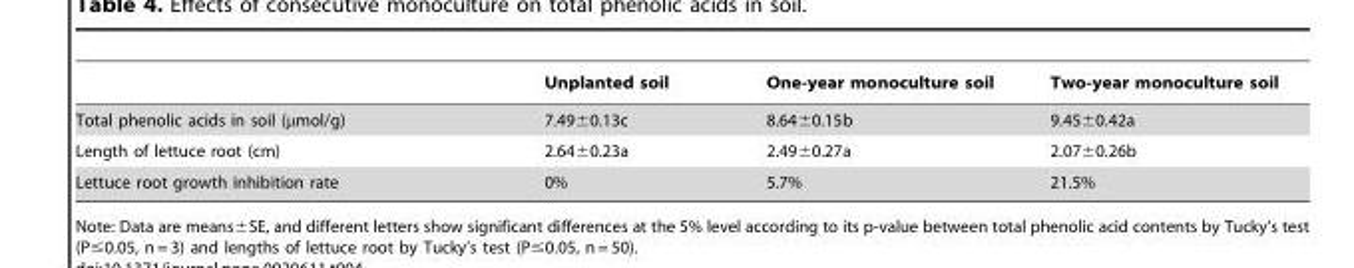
<table><thead><tr><td></td><td>Unplanted soil</td><td>One-year monoculture soil</td><td>Two-year monoculture soil</td></tr></thead><tbody><tr><td>Total phenolic acids in soil (μmol/g)</td><td>7.49±0.13c</td><td>8.64±0.15b</td><td>9.45±0.42a</td></tr><tr><td>Length of lettuce root (cm)</td><td>2.64±0.23a</td><td>2.49±0.27a</td><td>2.07±0.26b</td></tr><tr><td>Lettuce root growth inhibition rate</td><td>0%</td><td>5.7%</td><td>21.5%</td></tr></tbody></table>